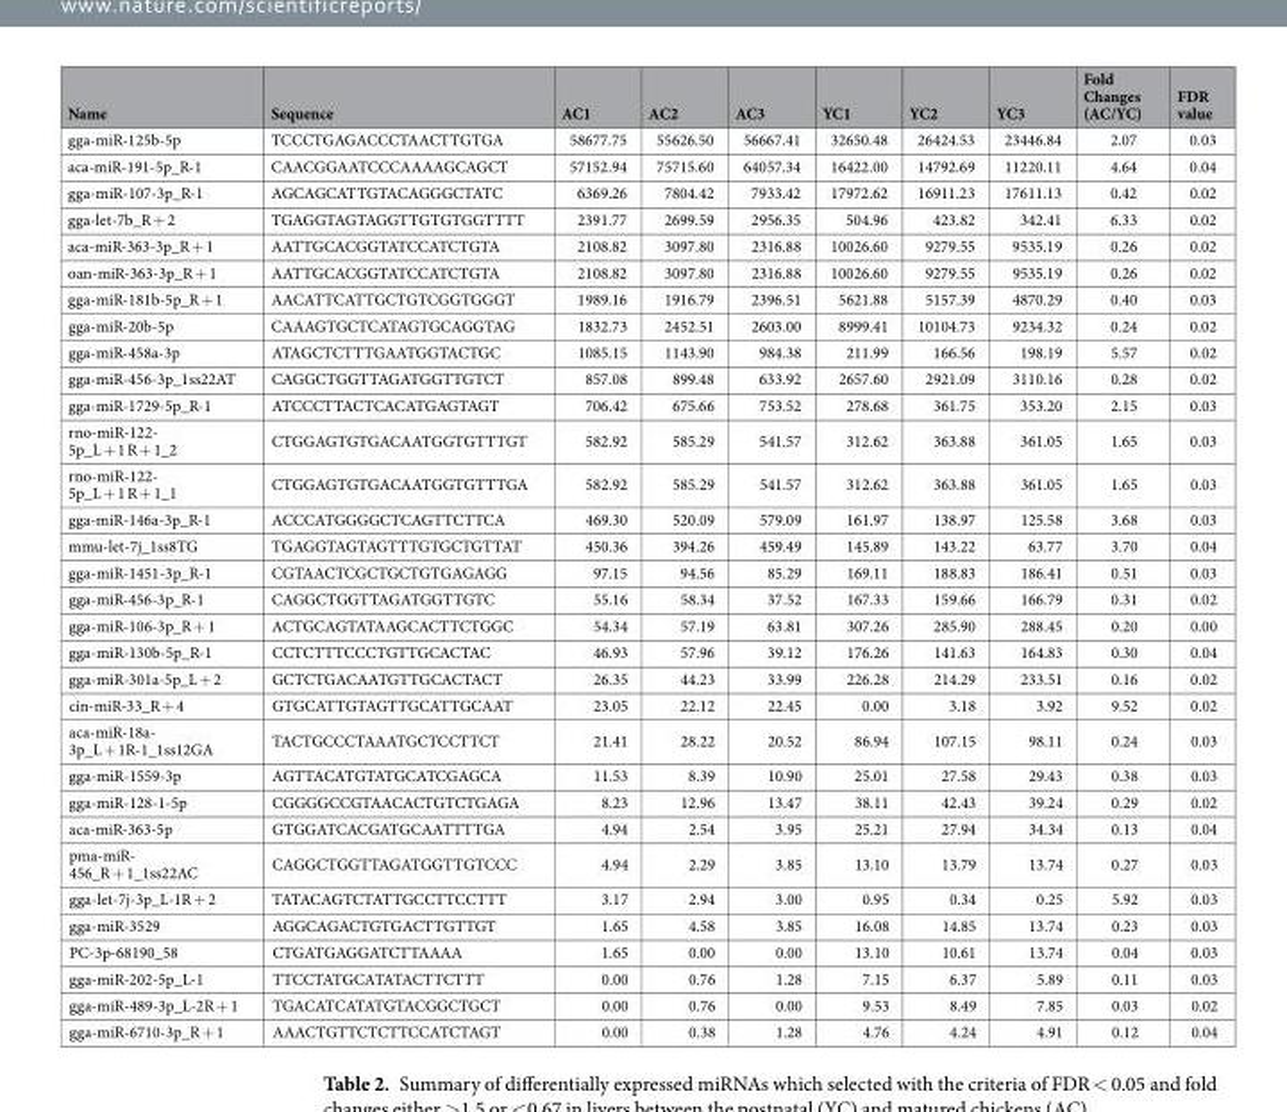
<table><thead><tr><td>Name</td><td>Sequence</td><td>AC1</td><td>AC2</td><td>AC3</td><td>YC1</td><td>YC2</td><td>YC3</td><td>Fold Changes (AC/YC)</td><td>FDR value</td></tr></thead><tbody><tr><td>gga-miR-125b-5p</td><td>TCCCTGAGACCCTAACTTGTGA</td><td>58677.75</td><td>55626.50</td><td>56667.41</td><td>32650.48</td><td>26424.53</td><td>23446.84</td><td>2.07</td><td>0.03</td></tr><tr><td>aca-miR-191-5p_R-1</td><td>CAACGGAATCCCAAAAGCAGCT</td><td>57152.94</td><td>75715.60</td><td>64057.34</td><td>16422.00</td><td>14792.69</td><td>11220.11</td><td>4.64</td><td>0.04</td></tr><tr><td>gga-miR-107-3p_R-1</td><td>AGCAGCATTGTACAGGGCTATC</td><td>6369.26</td><td>7804.42</td><td>7933.42</td><td>17972.62</td><td>16911.23</td><td>17611.13</td><td>0.42</td><td>0.02</td></tr><tr><td>gga-let-7b_R + 2</td><td>TGAGGTAGTAGGTTGTGTGGTTTT</td><td>2391.77</td><td>2699.59</td><td>2956.35</td><td>504.96</td><td>423.82</td><td>342.41</td><td>6.33</td><td>0.02</td></tr><tr><td>aca-miR-363-3p_R + 1</td><td>AATTGCACGGTATCCATCTGTA</td><td>2108.82</td><td>3097.80</td><td>2316.88</td><td>10026.60</td><td>9279.55</td><td>9535.19</td><td>0.26</td><td>0.02</td></tr><tr><td>oan-miR-363-3p_R + 1</td><td>AATTGCACGGTATCCATCTGTA</td><td>2108.82</td><td>3097.80</td><td>2316.88</td><td>10026.60</td><td>9279.55</td><td>9535.19</td><td>0.26</td><td>0.02</td></tr><tr><td>gga-miR-181b-5p_R + 1</td><td>AACATTCATTGCTGTCGGTGGGT</td><td>1989.16</td><td>1916.79</td><td>2396.51</td><td>5621.88</td><td>5157.39</td><td>4870.29</td><td>0.40</td><td>0.03</td></tr><tr><td>gga-miR-20b-5p</td><td>CAAAGTGCTCATAGTGCAGGTAG</td><td>1832.73</td><td>2452.51</td><td>2603.00</td><td>8999.41</td><td>10104.73</td><td>9234.32</td><td>0.24</td><td>0.02</td></tr><tr><td>gga-miR-458a-3p</td><td>ATAGCTCTTTGAATGGTACTGC</td><td>1085.15</td><td>1143.90</td><td>984.38</td><td>211.99</td><td>166.56</td><td>198.19</td><td>5.57</td><td>0.02</td></tr><tr><td>gga-miR-456-3p_1ss22AT</td><td>CAGGCTGGTTAGATGGTTGTCT</td><td>857.08</td><td>899.48</td><td>633.92</td><td>2657.60</td><td>2921.09</td><td>3110.16</td><td>0.28</td><td>0.02</td></tr><tr><td>gga-miR-1729-5p_R-1</td><td>ATCCCTTACTCACATGAGTAGT</td><td>706.42</td><td>675.66</td><td>753.52</td><td>278.68</td><td>361.75</td><td>353.20</td><td>2.15</td><td>0.03</td></tr><tr><td>rno-miR-122- 5p_L + 1 R + 1_2</td><td>CTGGAGTGTGACAATGGTGTTTGT</td><td>582.92</td><td>585.29</td><td>541.57</td><td>312.62</td><td>363.88</td><td>361.05</td><td>1.65</td><td>0.03</td></tr><tr><td>rno-miR-122- 5p_L + 1 R + 1_1</td><td>CTGGAGTGTGACAATGGTGTTTGA</td><td>582.92</td><td>585.29</td><td>541.57</td><td>312.62</td><td>363.88</td><td>361.05</td><td>1.65</td><td>0.03</td></tr><tr><td>gga-miR-146a-3p_R-1</td><td>ACCCATGGGGCTCAGTTCTTCA</td><td>469.30</td><td>520.09</td><td>579.09</td><td>161.97</td><td>138.97</td><td>125.58</td><td>3.68</td><td>0.03</td></tr><tr><td>mmu-let-7j_1ss8TG</td><td>TGAGGTAGTAGTTTGTGCTGTTAT</td><td>450.36</td><td>394.26</td><td>459.49</td><td>145.89</td><td>143.22</td><td>63.77</td><td>3.70</td><td>0.04</td></tr><tr><td>gga-miR-1451-3p_R-1</td><td>CGTAACTCGCTGCTGTGAGAGG</td><td>97.15</td><td>94.56</td><td>85.29</td><td>169.11</td><td>188.83</td><td>186.41</td><td>0.51</td><td>0.03</td></tr><tr><td>gga-miR-456-3p_R-1</td><td>CAGGCTGGTTAGATGGTTGTC</td><td>55.16</td><td>58.34</td><td>37.52</td><td>167.33</td><td>159.66</td><td>166.79</td><td>0.31</td><td>0.02</td></tr><tr><td>gga-miR-106-3p_R + 1</td><td>ACTGCAGTATAAGCACTTCTGGC</td><td>54.34</td><td>57.19</td><td>63.81</td><td>307.26</td><td>285.90</td><td>288.45</td><td>0.20</td><td>0.00</td></tr><tr><td>gga-miR-130b-5p_R-1</td><td>CCTCTTTCCCTGTTGCACTAC</td><td>46.93</td><td>57.96</td><td>39.12</td><td>176.26</td><td>141.63</td><td>164.83</td><td>0.30</td><td>0.04</td></tr><tr><td>gga-miR-301a-5p_L + 2</td><td>GCTCTGACAATGTTGCACTACT</td><td>26.35</td><td>44.23</td><td>33.99</td><td>226.28</td><td>214.29</td><td>233.51</td><td>0.16</td><td>0.02</td></tr><tr><td>cin-miR-33_R + 4</td><td>GTGCATTGTAGTTGCATTGCAAT</td><td>23.05</td><td>22.12</td><td>22.45</td><td>0.00</td><td>3.18</td><td>3.92</td><td>9.52</td><td>0.02</td></tr><tr><td>aca-miR-18a- 3p_L + 1R-1_1ss12GA</td><td>TACTGCCCTAAATGCTCCTTCT</td><td>21.41</td><td>28.22</td><td>20.52</td><td>86.94</td><td>107.15</td><td>98.11</td><td>0.24</td><td>0.03</td></tr><tr><td>gga-miR-1559-3p</td><td>AGTTACATGTATGCATCGAGCA</td><td>11.53</td><td>8.39</td><td>10.90</td><td>25.01</td><td>27.58</td><td>29.43</td><td>0.38</td><td>0.03</td></tr><tr><td>gga-miR-128-1-5p</td><td>CGGGGCCGTAACACTGTCTGAGA</td><td>8.23</td><td>12.96</td><td>13.47</td><td>38.11</td><td>42.43</td><td>39.24</td><td>0.29</td><td>0.02</td></tr><tr><td>aca-miR-363-5p</td><td>GTGGATCACGATGCAATTTTGA</td><td>4.94</td><td>2.54</td><td>3.95</td><td>25.21</td><td>27.94</td><td>34.34</td><td>0.13</td><td>0.04</td></tr><tr><td>pma-miR- 456_R + 1_1ss22AC</td><td>CAGGCTGGTTAGATGGTTGTCCC</td><td>4.94</td><td>2.29</td><td>3.85</td><td>13.10</td><td>13.79</td><td>13.74</td><td>0.27</td><td>0.03</td></tr><tr><td>gga-let-7j-3p_L-1R + 2</td><td>TATACAGTCTATTGCCTTCCTTT</td><td>3.17</td><td>2.94</td><td>3.00</td><td>0.95</td><td>0.34</td><td>0.25</td><td>5.92</td><td>0.03</td></tr><tr><td>gga-miR-3529</td><td>AGGCAGACTGTGACTTGTTGT</td><td>1.65</td><td>4.58</td><td>3.85</td><td>16.08</td><td>14.85</td><td>13.74</td><td>0.23</td><td>0.03</td></tr><tr><td>PC-3p-68190_58</td><td>CTGATGAGGATCTTAAAA</td><td>1.65</td><td>0.00</td><td>0.00</td><td>13.10</td><td>10.61</td><td>13.74</td><td>0.04</td><td>0.03</td></tr><tr><td>gga-miR-202-5p_L-1</td><td>TTCCTATGCATATACTTCTTT</td><td>0.00</td><td>0.76</td><td>1.28</td><td>7.15</td><td>6.37</td><td>5.89</td><td>0.11</td><td>0.03</td></tr><tr><td>gga-miR-489-3p_L-2R + 1</td><td>TGACATCATATGTACGGCTGCT</td><td>0.00</td><td>0.76</td><td>0.00</td><td>9.53</td><td>8.49</td><td>7.85</td><td>0.03</td><td>0.02</td></tr><tr><td>gga-miR-6710-3p_R + 1</td><td>AAACTGTTCTCTTCCATCTAGT</td><td>0.00</td><td>0.38</td><td>1.28</td><td>4.76</td><td>4.24</td><td>4.91</td><td>0.12</td><td>0.04</td></tr></tbody></table>